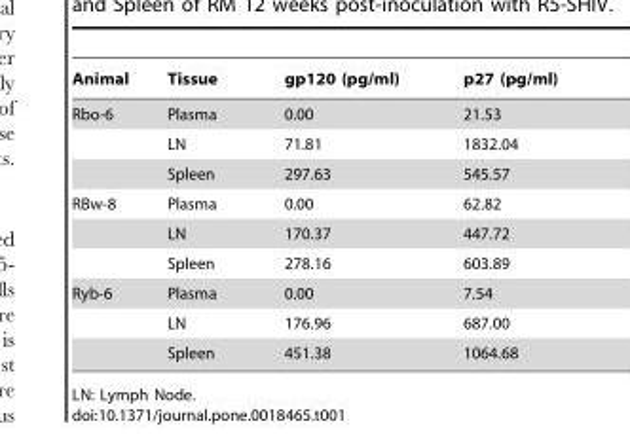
<table><thead><tr><td>Animal</td><td>Tissue</td><td>gp120 (pg/ml)</td><td>p27 (pg/ml)</td></tr></thead><tbody><tr><td rowspan="3">Rbo-6</td><td>Plasma</td><td>0.00</td><td>21.53</td></tr><tr><td>LN</td><td>71.81</td><td>1832.04</td></tr><tr><td>Spleen</td><td>297.63</td><td>545.57</td></tr><tr><td rowspan="3">RBw-8</td><td>Plasma</td><td>0.00</td><td>62.82</td></tr><tr><td>LN</td><td>170.37</td><td>447.72</td></tr><tr><td>Spleen</td><td>278.16</td><td>603.89</td></tr><tr><td rowspan="3">Ryb-6</td><td>Plasma</td><td>0.00</td><td>7.54</td></tr><tr><td>LN</td><td>176.96</td><td>687.00</td></tr><tr><td>Spleen</td><td>451.38</td><td>1064.68</td></tr></tbody></table>